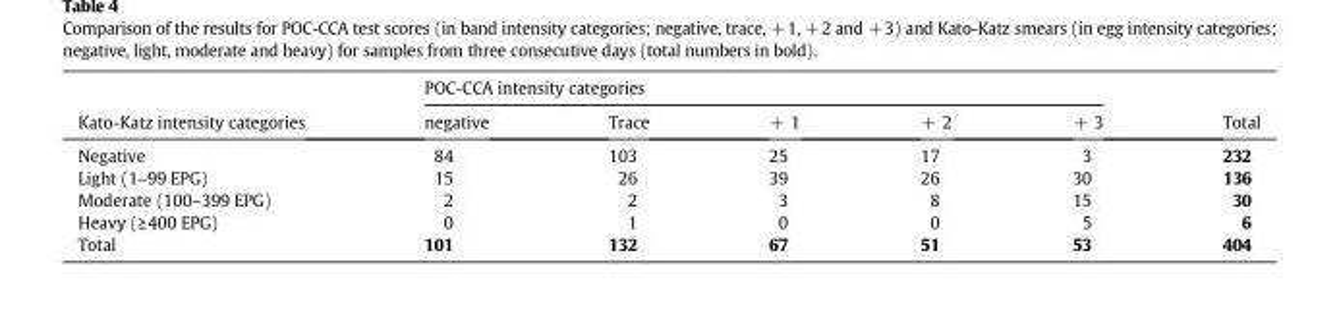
<table><thead><tr><td rowspan="2">Kato-Katz intensity categories</td><td colspan="5">POC-CCA intensity categories</td><td rowspan="2">Total</td></tr><tr><td>negative</td><td>Trace</td><td>+ 1</td><td>+ 2</td><td>+ 3</td></tr></thead><tbody><tr><td>Negative</td><td>84</td><td>103</td><td>25</td><td>17</td><td>3</td><td>232</td></tr><tr><td>Light (1–99 EPG)</td><td>15</td><td>26</td><td>39</td><td>26</td><td>30</td><td>136</td></tr><tr><td>Moderate (100–399 EPG)</td><td>2</td><td>2</td><td>3</td><td>8</td><td>15</td><td>30</td></tr><tr><td>Heavy (≥400 EPG)</td><td>0</td><td>1</td><td>0</td><td>0</td><td>5</td><td>6</td></tr><tr><td>Total</td><td>101</td><td>132</td><td>67</td><td>51</td><td>53</td><td>404</td></tr></tbody></table>